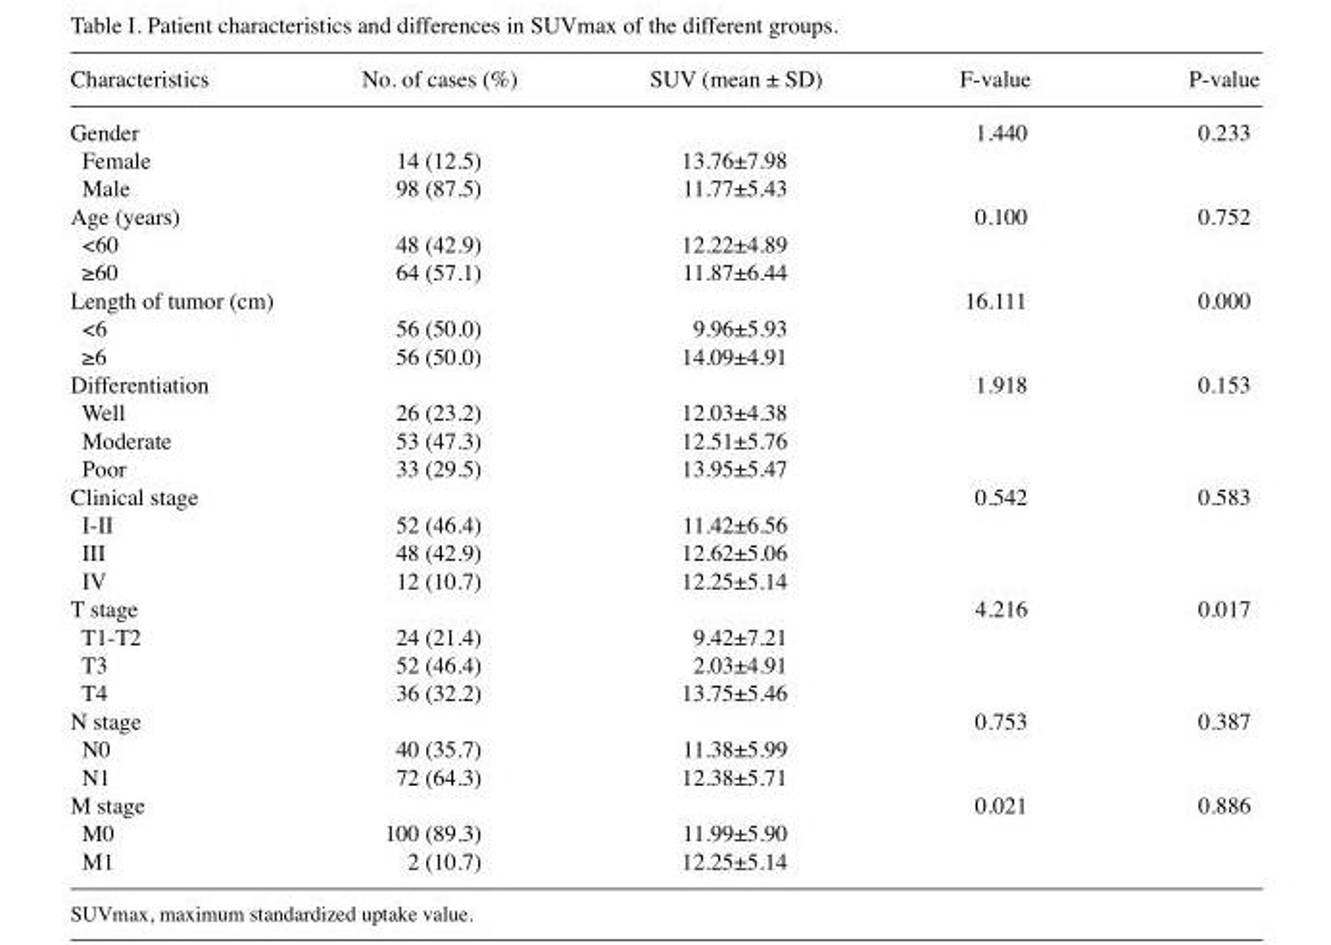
<table><thead><tr><td>Characteristics</td><td>No. of cases (%)</td><td>SUV (mean ± SD)</td><td>F‑value</td><td>P‑value</td></tr></thead><tbody><tr><td>Gender</td><td></td><td></td><td>1.440</td><td>0.233</td></tr><tr><td>Female</td><td>14 (12.5)</td><td>13.76±7.98</td><td></td><td></td></tr><tr><td>Male</td><td>98 (87.5)</td><td>11.77±5.43</td><td></td><td></td></tr><tr><td>Age (years)</td><td></td><td></td><td>0.100</td><td>0.752</td></tr><tr><td>&lt;60</td><td>48 (42.9)</td><td>12.22±4.89</td><td></td><td></td></tr><tr><td>≥60</td><td>64 (57.1)</td><td>11.87±6.44</td><td></td><td></td></tr><tr><td>Length of tumor (cm)</td><td></td><td></td><td>16.111</td><td>0.000</td></tr><tr><td>&lt;6</td><td>56 (50.0)</td><td>9.96±5.93</td><td></td><td></td></tr><tr><td>≥6</td><td>56 (50.0)</td><td>14.09±4.91</td><td></td><td></td></tr><tr><td>Differentiation</td><td></td><td></td><td>1.918</td><td>0.153</td></tr><tr><td>Well</td><td>26 (23.2)</td><td>12.03±4.38</td><td></td><td></td></tr><tr><td>Moderate</td><td>53 (47.3)</td><td>12.51±5.76</td><td></td><td></td></tr><tr><td>Poor</td><td>33 (29.5)</td><td>13.95±5.47</td><td></td><td></td></tr><tr><td>Clinical stage</td><td></td><td></td><td>0.542</td><td>0.583</td></tr><tr><td>I‑II</td><td>52 (46.4)</td><td>11.42±6.56</td><td></td><td></td></tr><tr><td>III</td><td>48 (42.9)</td><td>12.62±5.06</td><td></td><td></td></tr><tr><td>IV</td><td>12 (10.7)</td><td>12.25±5.14</td><td></td><td></td></tr><tr><td>T stage</td><td></td><td></td><td>4.216</td><td>0.017</td></tr><tr><td>T1‑T2</td><td>24 (21.4)</td><td>9.42±7.21</td><td></td><td></td></tr><tr><td>T3</td><td>52 (46.4)</td><td>2.03±4.91</td><td></td><td></td></tr><tr><td>T4</td><td>36 (32.2)</td><td>13.75±5.46</td><td></td><td></td></tr><tr><td>N stage</td><td></td><td></td><td>0.753</td><td>0.387</td></tr><tr><td>N0</td><td>40 (35.7)</td><td>11.38±5.99</td><td></td><td></td></tr><tr><td>N1</td><td>72 (64.3)</td><td>12.38±5.71</td><td></td><td></td></tr><tr><td>M stage</td><td></td><td></td><td>0.021</td><td>0.886</td></tr><tr><td>M0</td><td>100 (89.3)</td><td>11.99±5.90</td><td></td><td></td></tr><tr><td>M1</td><td>2 (10.7)</td><td>12.25±5.14</td><td></td><td></td></tr></tbody></table>